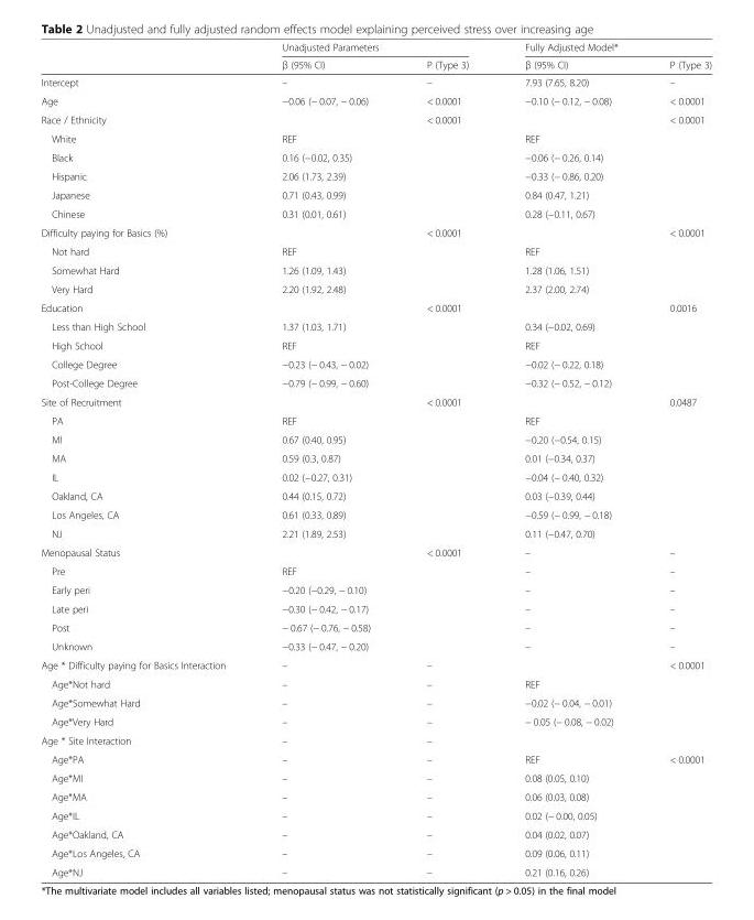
<table><thead><tr><td rowspan="2"></td><td colspan="2">Unadjusted Parameters</td><td colspan="2">Fully Adjusted Model*</td></tr><tr><td>β (95% CI)</td><td>P (Type 3)</td><td>β (95% CI)</td><td>P (Type 3)</td></tr></thead><tbody><tr><td>Intercept</td><td>–</td><td>–</td><td>7.93 (7.65, 8.20)</td><td>–</td></tr><tr><td>Age</td><td>−0.06 (− 0.07, − 0.06)</td><td>&lt; 0.0001</td><td>−0.10 (− 0.12, − 0.08)</td><td>&lt; 0.0001</td></tr><tr><td>Race / Ethnicity</td><td></td><td>&lt; 0.0001</td><td></td><td>&lt; 0.0001</td></tr><tr><td>White</td><td>REF</td><td></td><td>REF</td><td></td></tr><tr><td>Black</td><td>0.16 (−0.02, 0.35)</td><td></td><td>−0.06 (− 0.26, 0.14)</td><td></td></tr><tr><td>Hispanic</td><td>2.06 (1.73, 2.39)</td><td></td><td>−0.33 (− 0.86, 0.20)</td><td></td></tr><tr><td>Japanese</td><td>0.71 (0.43, 0.99)</td><td></td><td>0.84 (0.47, 1.21)</td><td></td></tr><tr><td>Chinese</td><td>0.31 (0.01, 0.61)</td><td></td><td>0.28 (−0.11, 0.67)</td><td></td></tr><tr><td>Difficulty paying for Basics (%)</td><td></td><td>&lt; 0.0001</td><td></td><td>&lt; 0.0001</td></tr><tr><td>Not hard</td><td>REF</td><td></td><td>REF</td><td></td></tr><tr><td>Somewhat Hard</td><td>1.26 (1.09, 1.43)</td><td></td><td>1.28 (1.06, 1.51)</td><td></td></tr><tr><td>Very Hard</td><td>2.20 (1.92, 2.48)</td><td></td><td>2.37 (2.00, 2.74)</td><td></td></tr><tr><td>Education</td><td></td><td>&lt; 0.0001</td><td></td><td>0.0016</td></tr><tr><td>Less than High School</td><td>1.37 (1.03, 1.71)</td><td></td><td>0.34 (−0.02, 0.69)</td><td></td></tr><tr><td>High School</td><td>REF</td><td></td><td>REF</td><td></td></tr><tr><td>College Degree</td><td>−0.23 (− 0.43, − 0.02)</td><td></td><td>−0.02 (− 0.22, 0.18)</td><td></td></tr><tr><td>Post-College Degree</td><td>−0.79 (− 0.99, − 0.60)</td><td></td><td>−0.32 (− 0.52, − 0.12)</td><td></td></tr><tr><td>Site of Recruitment</td><td></td><td>&lt; 0.0001</td><td></td><td>0.0487</td></tr><tr><td>PA</td><td>REF</td><td></td><td>REF</td><td></td></tr><tr><td>MI</td><td>0.67 (0.40, 0.95)</td><td></td><td>−0.20 (−0.54, 0.15)</td><td></td></tr><tr><td>MA</td><td>0.59 (0.3, 0.87)</td><td></td><td>0.01 (−0.34, 0.37)</td><td></td></tr><tr><td>IL</td><td>0.02 (−0.27, 0.31)</td><td></td><td>−0.04 (− 0.40, 0.32)</td><td></td></tr><tr><td>Oakland, CA</td><td>0.44 (0.15, 0.72)</td><td></td><td>0.03 (−0.39, 0.44)</td><td></td></tr><tr><td>Los Angeles, CA</td><td>0.61 (0.33, 0.89)</td><td></td><td>−0.59 (− 0.99, − 0.18)</td><td></td></tr><tr><td>NJ</td><td>2.21 (1.89, 2.53)</td><td></td><td>0.11 (−0.47, 0.70)</td><td></td></tr><tr><td>Menopausal Status</td><td></td><td>&lt; 0.0001</td><td>–</td><td>–</td></tr><tr><td>Pre</td><td>REF</td><td></td><td>–</td><td>–</td></tr><tr><td>Early peri</td><td>−0.20 (−0.29, − 0.10)</td><td></td><td>–</td><td>–</td></tr><tr><td>Late peri</td><td>−0.30 (− 0.42, − 0.17)</td><td></td><td>–</td><td>–</td></tr><tr><td>Post</td><td>− 0.67 (− 0.76, − 0.58)</td><td></td><td>–</td><td>–</td></tr><tr><td>Unknown</td><td>−0.33 (− 0.47, − 0.20)</td><td></td><td>–</td><td>–</td></tr><tr><td>Age * Difficulty paying for Basics Interaction</td><td>–</td><td>–</td><td></td><td>&lt; 0.0001</td></tr><tr><td>Age*Not hard</td><td>–</td><td>–</td><td>REF</td><td></td></tr><tr><td>Age*Somewhat Hard</td><td>–</td><td>–</td><td>−0.02 (− 0.04, − 0.01)</td><td></td></tr><tr><td>Age*Very Hard</td><td>–</td><td>–</td><td>− 0.05 (− 0.08, − 0.02)</td><td></td></tr><tr><td>Age * Site Interaction</td><td>–</td><td>–</td><td></td><td></td></tr><tr><td>Age*PA</td><td>–</td><td>–</td><td>REF</td><td>&lt; 0.0001</td></tr><tr><td>Age*MI</td><td>–</td><td>–</td><td>0.08 (0.05, 0.10)</td><td></td></tr><tr><td>Age*MA</td><td>–</td><td>–</td><td>0.06 (0.03, 0.08)</td><td></td></tr><tr><td>Age*IL</td><td>–</td><td>–</td><td>0.02 (− 0.00, 0.05)</td><td></td></tr><tr><td>Age*Oakland, CA</td><td>–</td><td>–</td><td>0.04 (0.02, 0.07)</td><td></td></tr><tr><td>Age*Los Angeles, CA</td><td>–</td><td>–</td><td>0.09 (0.06, 0.11)</td><td></td></tr><tr><td>Age*NJ</td><td>–</td><td>–</td><td>0.21 (0.16, 0.26)</td><td></td></tr></tbody></table>